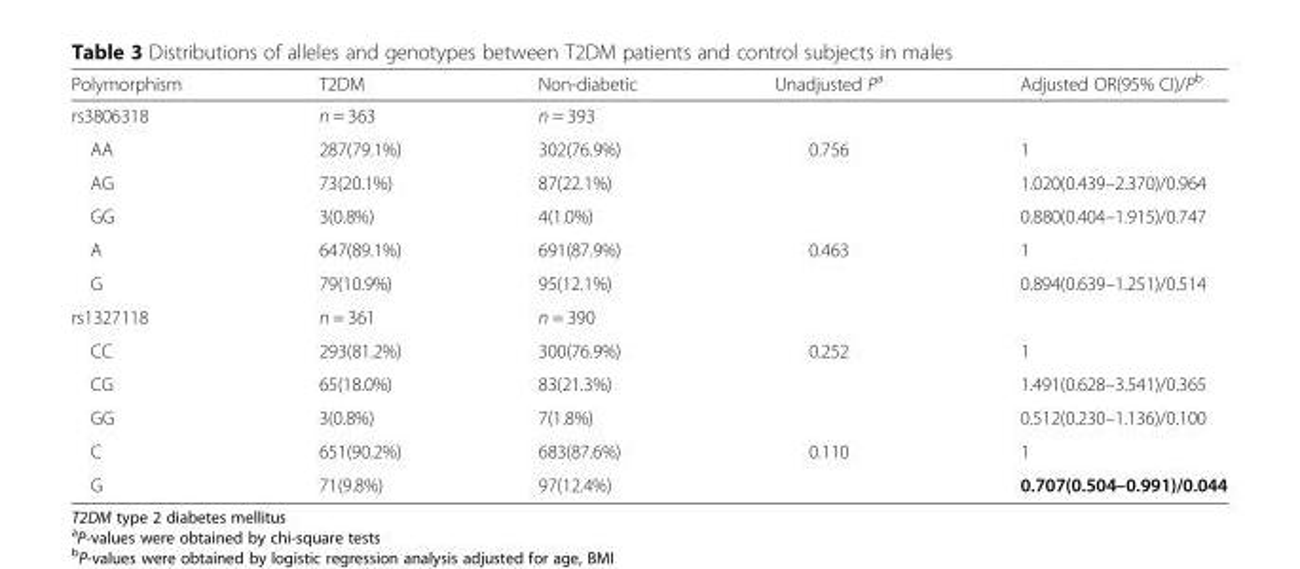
<table><thead><tr><td>Polymorphism</td><td>T2DM</td><td>Non-diabetic</td><td>Unadjusted P<sup>a</sup></td><td>Adjusted OR(95% CI)/P<sup>b</sup></td></tr></thead><tbody><tr><td>rs3806318</td><td>n = 363</td><td>n = 393</td><td></td><td></td></tr><tr><td>AA</td><td>287(79.1%)</td><td>302(76.9%)</td><td>0.756</td><td>1</td></tr><tr><td>AG</td><td>73(20.1%)</td><td>87(22.1%)</td><td></td><td>1.020(0.439–2.370)/0.964</td></tr><tr><td>GG</td><td>3(0.8%)</td><td>4(1.0%)</td><td></td><td>0.880(0.404–1.915)/0.747</td></tr><tr><td>A</td><td>647(89.1%)</td><td>691(87.9%)</td><td>0.463</td><td>1</td></tr><tr><td>G</td><td>79(10.9%)</td><td>95(12.1%)</td><td></td><td>0.894(0.639–1.251)/0.514</td></tr><tr><td>rs1327118</td><td>n = 361</td><td>n = 390</td><td></td><td></td></tr><tr><td>CC</td><td>293(81.2%)</td><td>300(76.9%)</td><td>0.252</td><td>1</td></tr><tr><td>CG</td><td>65(18.0%)</td><td>83(21.3%)</td><td></td><td>1.491(0.628–3.541)/0.365</td></tr><tr><td>GG</td><td>3(0.8%)</td><td>7(1.8%)</td><td></td><td>0.512(0.230–1.136)/0.100</td></tr><tr><td>C</td><td>651(90.2%)</td><td>683(87.6%)</td><td>0.110</td><td>1</td></tr><tr><td>G</td><td>71(9.8%)</td><td>97(12.4%)</td><td></td><td>0.707(0.504–0.991)/0.044</td></tr></tbody></table>